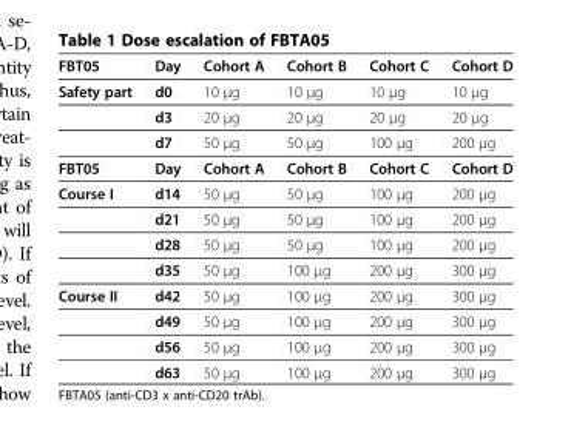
<table><thead><tr><td>FBT05</td><td>Day</td><td>Cohort A</td><td>Cohort B</td><td>Cohort C</td><td>Cohort D</td></tr></thead><tbody><tr><td rowspan="3">Safety part</td><td>d0</td><td>10 μg</td><td>10 μg</td><td>10 μg</td><td>10 μg</td></tr><tr><td>d3</td><td>20 μg</td><td>20 μg</td><td>20 μg</td><td>20 μg</td></tr><tr><td>d7</td><td>50 μg</td><td>50 μg</td><td>100 μg</td><td>200 μg</td></tr><tr><td>FBT05</td><td>Day</td><td>Cohort A</td><td>Cohort B</td><td>Cohort C</td><td>Cohort D</td></tr><tr><td rowspan="4">Course I</td><td>d14</td><td>50 μg</td><td>50 μg</td><td>100 μg</td><td>200 μg</td></tr><tr><td>d21</td><td>50 μg</td><td>50 μg</td><td>100 μg</td><td>200 μg</td></tr><tr><td>d28</td><td>50 μg</td><td>50 μg</td><td>100 μg</td><td>200 μg</td></tr><tr><td>d35</td><td>50 μg</td><td>100 μg</td><td>200 μg</td><td>300 μg</td></tr><tr><td rowspan="4">Course II</td><td>d42</td><td>50 μg</td><td>100 μg</td><td>200 μg</td><td>300 μg</td></tr><tr><td>d49</td><td>50 μg</td><td>100 μg</td><td>200 μg</td><td>300 μg</td></tr><tr><td>d56</td><td>50 μg</td><td>100 μg</td><td>200 μg</td><td>300 μg</td></tr><tr><td>d63</td><td>50 μg</td><td>100 μg</td><td>200 μg</td><td>300 μg</td></tr></tbody></table>